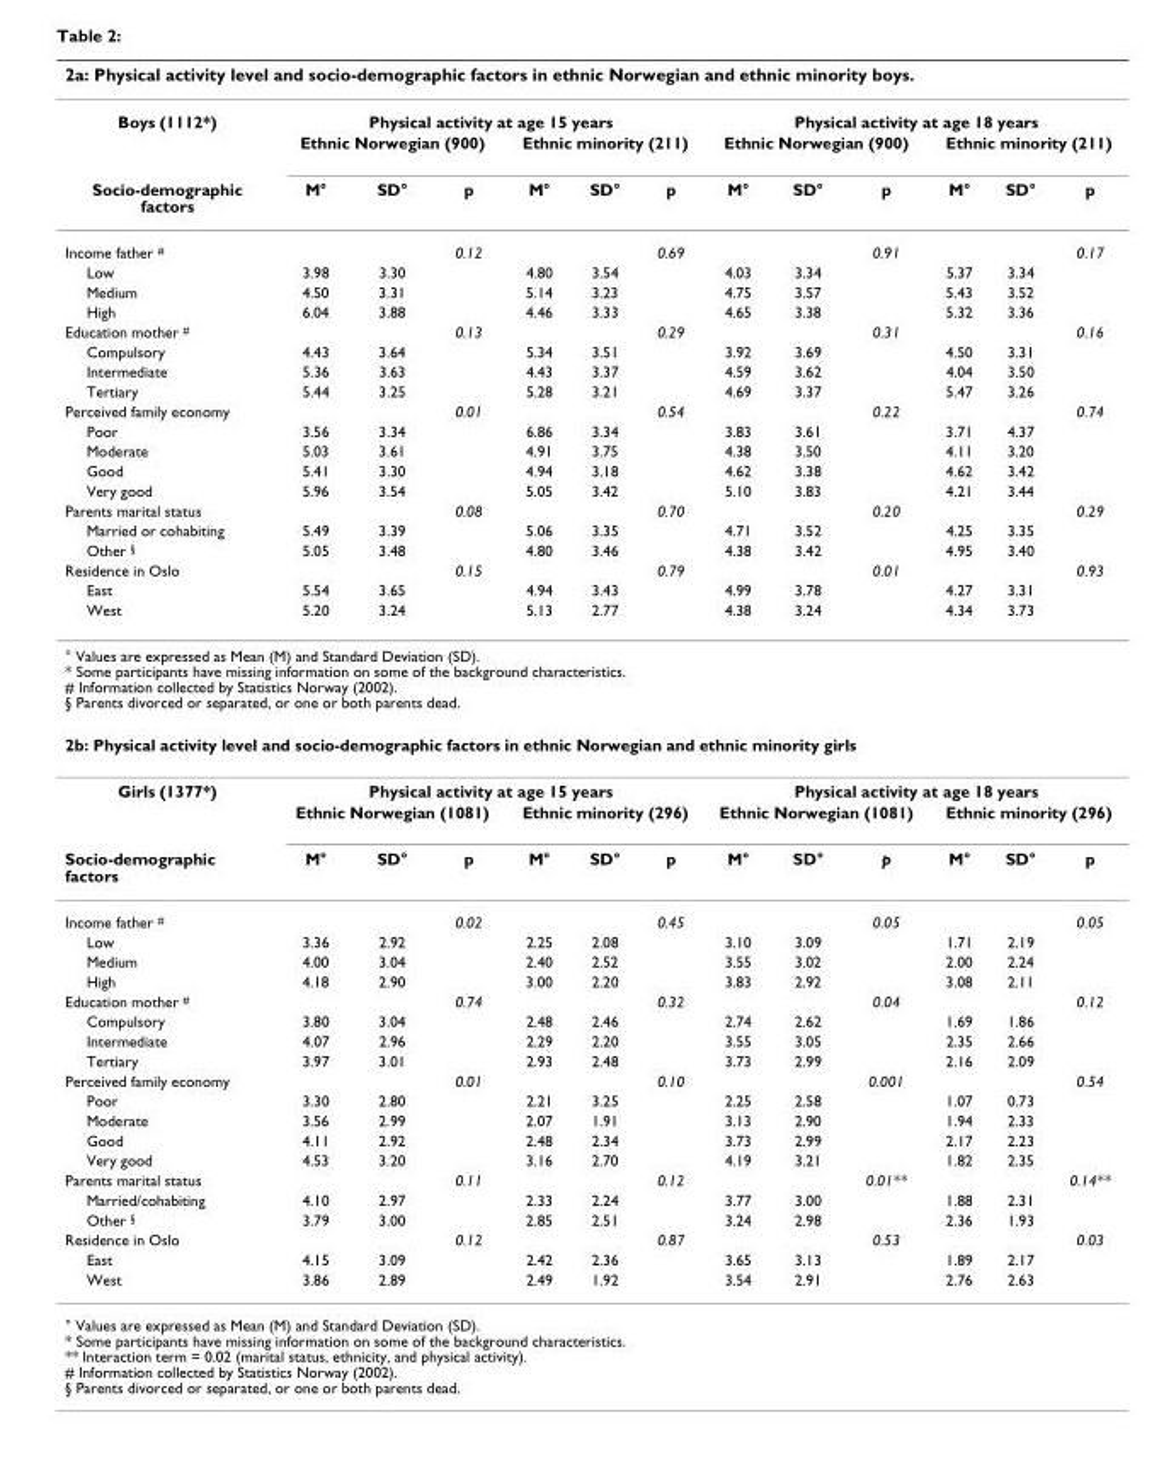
<table><thead><tr><td colspan="13">2a: Physical activity level and socio-demographic factors in ethnic Norwegian and ethnic minority boys.</td></tr><tr><td rowspan="3">Boys (1112*) Socio-demographic factors</td><td colspan="6">Physical activity at age 15 years</td><td colspan="6">Physical activity at age 18 years</td></tr><tr><td colspan="3">Ethnic Norwegian (900)</td><td colspan="3">Ethnic minority (211)</td><td colspan="3">Ethnic Norwegian (900)</td><td colspan="3">Ethnic minority (211)</td></tr><tr><td>M°</td><td>SD°</td><td>p</td><td>M°</td><td>SD°</td><td>p</td><td>M°</td><td>SD°</td><td>p</td><td>M°</td><td>SD°</td><td>p</td></tr></thead><tbody><tr><td>Income father <sup>#</sup></td><td></td><td></td><td>0.12</td><td></td><td></td><td>0.69</td><td></td><td></td><td>0.91</td><td></td><td></td><td>0.17</td></tr><tr><td>Low</td><td>3.98</td><td>3.30</td><td></td><td>4.80</td><td>3.54</td><td></td><td>4.03</td><td>3.34</td><td></td><td>5.37</td><td>3.34</td><td></td></tr><tr><td>Medium</td><td>4.50</td><td>3.31</td><td></td><td>5.14</td><td>3.23</td><td></td><td>4.75</td><td>3.57</td><td></td><td>5.43</td><td>3.52</td><td></td></tr><tr><td>High</td><td>6.04</td><td>3.88</td><td></td><td>4.46</td><td>3.33</td><td></td><td>4.65</td><td>3.38</td><td></td><td>5.32</td><td>3.36</td><td></td></tr><tr><td>Education mother <sup>#</sup></td><td></td><td></td><td>0.13</td><td></td><td></td><td>0.29</td><td></td><td></td><td>0.31</td><td></td><td></td><td>0.16</td></tr><tr><td>Compulsory</td><td>4.43</td><td>3.64</td><td></td><td>5.34</td><td>3.51</td><td></td><td>3.92</td><td>3.69</td><td></td><td>4.50</td><td>3.31</td><td></td></tr><tr><td>Intermediate</td><td>5.36</td><td>3.63</td><td></td><td>4.43</td><td>3.37</td><td></td><td>4.59</td><td>3.62</td><td></td><td>4.04</td><td>3.50</td><td></td></tr><tr><td>Tertiary</td><td>5.44</td><td>3.25</td><td></td><td>5.28</td><td>3.21</td><td></td><td>4.69</td><td>3.37</td><td></td><td>5.47</td><td>3.26</td><td></td></tr><tr><td>Perceived family economy</td><td></td><td></td><td>0.01</td><td></td><td></td><td>0.54</td><td></td><td></td><td>0.22</td><td></td><td></td><td>0.74</td></tr><tr><td>Poor</td><td>3.56</td><td>3.34</td><td></td><td>6.86</td><td>3.34</td><td></td><td>3.83</td><td>3.61</td><td></td><td>3.71</td><td>4.37</td><td></td></tr><tr><td>Moderate</td><td>5.03</td><td>3.61</td><td></td><td>4.91</td><td>3.75</td><td></td><td>4.38</td><td>3.50</td><td></td><td>4.11</td><td>3.20</td><td></td></tr><tr><td>Good</td><td>5.41</td><td>3.30</td><td></td><td>4.94</td><td>3.18</td><td></td><td>4.62</td><td>3.38</td><td></td><td>4.62</td><td>3.42</td><td></td></tr><tr><td>Very good</td><td>5.96</td><td>3.54</td><td></td><td>5.05</td><td>3.42</td><td></td><td>5.10</td><td>3.83</td><td></td><td>4.21</td><td>3.44</td><td></td></tr><tr><td>Parents marital status</td><td></td><td></td><td>0.08</td><td></td><td></td><td>0.70</td><td></td><td></td><td>0.20</td><td></td><td></td><td>0.29</td></tr><tr><td>Married or cohabiting</td><td>5.49</td><td>3.39</td><td></td><td>5.06</td><td>3.35</td><td></td><td>4.71</td><td>3.52</td><td></td><td>4.25</td><td>3.35</td><td></td></tr><tr><td>Other <sup>§</sup></td><td>5.05</td><td>3.48</td><td></td><td>4.80</td><td>3.46</td><td></td><td>4.38</td><td>3.42</td><td></td><td>4.95</td><td>3.40</td><td></td></tr><tr><td>Residence in Oslo</td><td></td><td></td><td>0.15</td><td></td><td></td><td>0.79</td><td></td><td></td><td>0.01</td><td></td><td></td><td>0.93</td></tr><tr><td>East</td><td>5.54</td><td>3.65</td><td></td><td>4.94</td><td>3.43</td><td></td><td>4.99</td><td>3.78</td><td></td><td>4.27</td><td>3.31</td><td></td></tr><tr><td>West</td><td>5.20</td><td>3.24</td><td></td><td>5.13</td><td>2.77</td><td></td><td>4.38</td><td>3.24</td><td></td><td>4.34</td><td>3.73</td><td></td></tr><tr><td colspan="13">° Values are expressed as Mean (M) and Standard Deviation (SD). * Some participants have missing information on some of the background characteristics. # Information collected by Statistics Norway (2002). § Parents divorced or separated, or one or both parents dead.</td></tr><tr><td colspan="13">2b: Physical activity level and socio-demographic factors in ethnic Norwegian and ethnic minority girls</td></tr><tr><td rowspan="2">Girls (1377*)</td><td colspan="6">Physical activity at age 15 years</td><td colspan="6">Physical activity at age 18 years</td></tr><tr><td colspan="3">Ethnic Norwegian (1081)</td><td colspan="3">Ethnic minority (296)</td><td colspan="3">Ethnic Norwegian (1081)</td><td colspan="3">Ethnic minority (296)</td></tr><tr><td>Socio-demographic factors</td><td>M°</td><td>SD°</td><td>p</td><td>M°</td><td>SD°</td><td>p</td><td>M°</td><td>SD°</td><td>p</td><td>M°</td><td>SD°</td><td>p</td></tr><tr><td>Income father <sup>#</sup></td><td></td><td></td><td>0.02</td><td></td><td></td><td>0.45</td><td></td><td></td><td>0.05</td><td></td><td></td><td>0.05</td></tr><tr><td>Low</td><td>3.36</td><td>2.92</td><td></td><td>2.25</td><td>2.08</td><td></td><td>3.10</td><td>3.09</td><td></td><td>1.71</td><td>2.19</td><td></td></tr><tr><td>Medium</td><td>4.00</td><td>3.04</td><td></td><td>2.40</td><td>2.52</td><td></td><td>3.55</td><td>3.02</td><td></td><td>2.00</td><td>2.24</td><td></td></tr><tr><td>High</td><td>4.18</td><td>2.90</td><td></td><td>3.00</td><td>2.20</td><td></td><td>3.83</td><td>2.92</td><td></td><td>3.08</td><td>2.11</td><td></td></tr><tr><td>Education mother <sup>#</sup></td><td></td><td></td><td>0.74</td><td></td><td></td><td>0.32</td><td></td><td></td><td>0.04</td><td></td><td></td><td>0.12</td></tr><tr><td>Compulsory</td><td>3.80</td><td>3.04</td><td></td><td>2.48</td><td>2.46</td><td></td><td>2.74</td><td>2.62</td><td></td><td>1.69</td><td>1.86</td><td></td></tr><tr><td>Intermediate</td><td>4.07</td><td>2.96</td><td></td><td>2.29</td><td>2.20</td><td></td><td>3.55</td><td>3.05</td><td></td><td>2.35</td><td>2.66</td><td></td></tr><tr><td>Tertiary</td><td>3.97</td><td>3.01</td><td></td><td>2.93</td><td>2.48</td><td></td><td>3.73</td><td>2.99</td><td></td><td>2.16</td><td>2.09</td><td></td></tr><tr><td>Perceived family economy</td><td></td><td></td><td>0.01</td><td></td><td></td><td>0.10</td><td></td><td></td><td>0.001</td><td></td><td></td><td>0.54</td></tr><tr><td>Poor</td><td>3.30</td><td>2.80</td><td></td><td>2.21</td><td>3.25</td><td></td><td>2.25</td><td>2.58</td><td></td><td>1.07</td><td>0.73</td><td></td></tr><tr><td>Moderate</td><td>3.56</td><td>2.99</td><td></td><td>2.07</td><td>1.91</td><td></td><td>3.13</td><td>2.90</td><td></td><td>1.94</td><td>2.33</td><td></td></tr><tr><td>Good</td><td>4.11</td><td>2.92</td><td></td><td>2.48</td><td>2.34</td><td></td><td>3.73</td><td>2.99</td><td></td><td>2.17</td><td>2.23</td><td></td></tr><tr><td>Very good</td><td>4.53</td><td>3.20</td><td></td><td>3.16</td><td>2.70</td><td></td><td>4.19</td><td>3.21</td><td></td><td>1.82</td><td>2.35</td><td></td></tr><tr><td>Parents marital status</td><td></td><td></td><td>0.11</td><td></td><td></td><td>0.12</td><td></td><td></td><td>0.01**</td><td></td><td></td><td>0.14**</td></tr><tr><td>Married/cohabiting</td><td>4.10</td><td>2.97</td><td></td><td>2.33</td><td>2.24</td><td></td><td>3.77</td><td>3.00</td><td></td><td>1.88</td><td>2.31</td><td></td></tr><tr><td>Other <sup>§</sup></td><td>3.79</td><td>3.00</td><td></td><td>2.85</td><td>2.51</td><td></td><td>3.24</td><td>2.98</td><td></td><td>2.36</td><td>1.93</td><td></td></tr><tr><td>Residence in Oslo</td><td></td><td></td><td>0.12</td><td></td><td></td><td>0.87</td><td></td><td></td><td>0.53</td><td></td><td></td><td>0.03</td></tr><tr><td>East</td><td>4.15</td><td>3.09</td><td></td><td>2.42</td><td>2.36</td><td></td><td>3.65</td><td>3.13</td><td></td><td>1.89</td><td>2.17</td><td></td></tr><tr><td>West</td><td>3.86</td><td>2.89</td><td></td><td>2.49</td><td>1.92</td><td></td><td>3.54</td><td>2.91</td><td></td><td>2.76</td><td>2.63</td><td></td></tr><tr><td colspan="13">° Values are expressed as Mean (M) and Standard Deviation (SD). * Some participants have missing information on some of the background characteristics. ** Interaction term = 0.02 (marital status, ethnicity, and physical activity). # Information collected by Statistics Norway (2002). § Parents divorced or separated, or one or both parents dead.</td></tr></tbody></table>